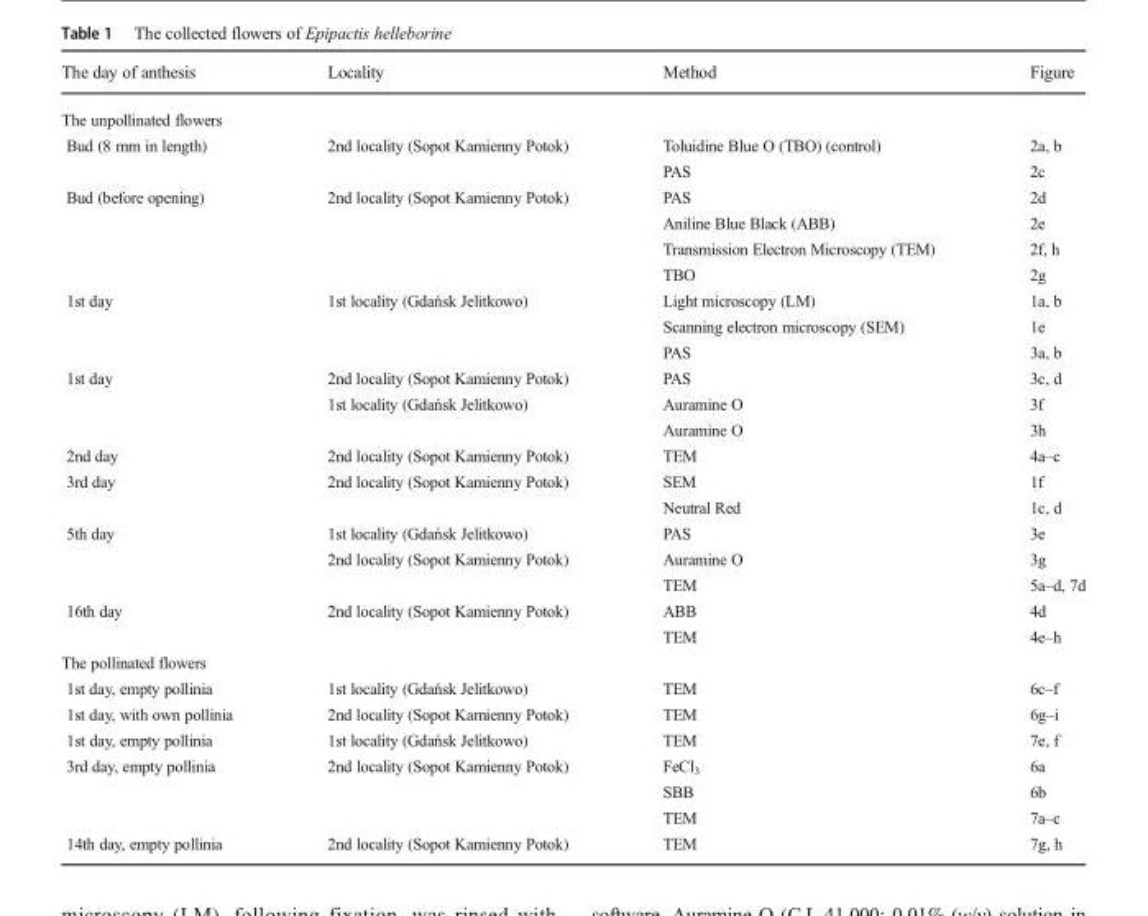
<table><thead><tr><td>The day of anthesis</td><td>Locality</td><td>Method</td><td>Figure</td></tr></thead><tbody><tr><td colspan="4">The unpollinated flowers</td></tr><tr><td rowspan="2">Bud (8 mm in length)</td><td rowspan="2">2nd locality (Sopot Kamienny Potok)</td><td>Toluidine Blue O (TBO) (control)</td><td>2a, b</td></tr><tr><td>PAS</td><td>2c</td></tr><tr><td rowspan="4">Bud (before opening)</td><td rowspan="4">2nd locality (Sopot Kamienny Potok)</td><td>PAS</td><td>2d</td></tr><tr><td>Aniline Blue Black (ABB)</td><td>2e</td></tr><tr><td>Transmission Electron Microscopy (TEM)</td><td>2f, h</td></tr><tr><td>TBO</td><td>2g</td></tr><tr><td rowspan="3">1st day</td><td rowspan="3">1st locality (Gdańsk Jelitkowo)</td><td>Light microscopy (LM)</td><td>1a, b</td></tr><tr><td>Scanning electron microscopy (SEM)</td><td>1e</td></tr><tr><td>PAS</td><td>3a, b</td></tr><tr><td rowspan="3">1st day</td><td>2nd locality (Sopot Kamienny Potok)</td><td>PAS</td><td>3c, d</td></tr><tr><td rowspan="2">1st locality (Gdańsk Jelitkowo)</td><td>Auramine O</td><td>3f</td></tr><tr><td>Auramine O</td><td>3h</td></tr><tr><td>2nd day</td><td>2nd locality (Sopot Kamienny Potok)</td><td>TEM</td><td>4a–c</td></tr><tr><td rowspan="2">3rd day</td><td rowspan="2">2nd locality (Sopot Kamienny Potok)</td><td>SEM</td><td>1f</td></tr><tr><td>Neutral Red</td><td>1c, d</td></tr><tr><td rowspan="3">5th day</td><td>1st locality (Gdańsk Jelitkowo)</td><td>PAS</td><td>3e</td></tr><tr><td rowspan="2">2nd locality (Sopot Kamienny Potok)</td><td>Auramine O</td><td>3g</td></tr><tr><td>TEM</td><td>5a–d, 7d</td></tr><tr><td rowspan="2">16th day</td><td rowspan="2">2nd locality (Sopot Kamienny Potok)</td><td>ABB</td><td>4d</td></tr><tr><td>TEM</td><td>4e–h</td></tr><tr><td colspan="4">The pollinated flowers</td></tr><tr><td>1st day, empty pollinia</td><td>1st locality (Gdańsk Jelitkowo)</td><td>TEM</td><td>6c–f</td></tr><tr><td>1st day, with own pollinia</td><td>2nd locality (Sopot Kamienny Potok)</td><td>TEM</td><td>6g–i</td></tr><tr><td>1st day, empty pollinia</td><td>1st locality (Gdańsk Jelitkowo)</td><td>TEM</td><td>7e, f</td></tr><tr><td rowspan="3">3rd day, empty pollinia</td><td rowspan="3">2nd locality (Sopot Kamienny Potok)</td><td>FeCl<sub>3</sub></td><td>6a</td></tr><tr><td>SBB</td><td>6b</td></tr><tr><td>TEM</td><td>7a–c</td></tr><tr><td>14th day, empty pollinia</td><td>2nd locality (Sopot Kamienny Potok)</td><td>TEM</td><td>7g, h</td></tr></tbody></table>